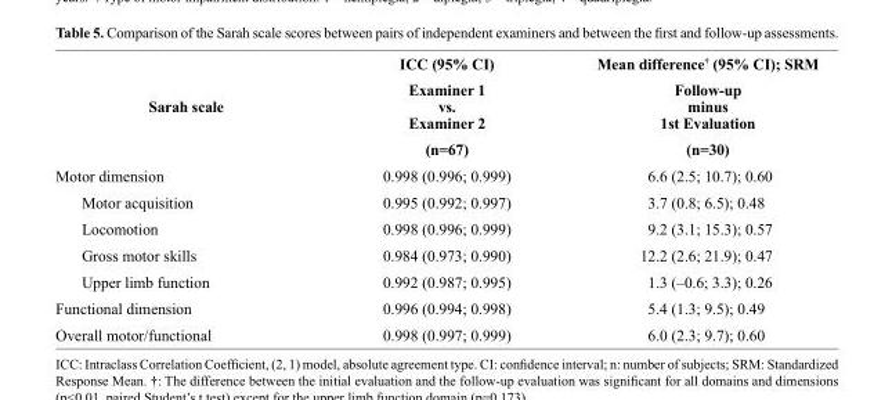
<table><thead><tr><td rowspan="3">Sarah scale</td><td rowspan="3">ICC (95% CI) Examiner 1 vs. Examiner 2 (n=67)</td><td rowspan="3">Mean difference<sup>†</sup> (95% CI); SRM Follow-up minus 1st Evaluation (n=30)</td></tr><tr></tr><tr></tr></thead><tbody><tr><td>Motor dimension</td><td>0.998 (0.996; 0.999)</td><td>6.6 (2.5; 10.7); 0.60</td></tr><tr><td>Motor acquisition</td><td>0.995 (0.992; 0.997)</td><td>3.7 (0.8; 6.5); 0.48</td></tr><tr><td>Locomotion</td><td>0.998 (0.996; 0.999)</td><td>9.2 (3.1; 15.3); 0.57</td></tr><tr><td>Gross motor skills</td><td>0.984 (0.973; 0.990)</td><td>12.2 (2.6; 21.9); 0.47</td></tr><tr><td>Upper limb function</td><td>0.992 (0.987; 0.995)</td><td>1.3 (–0.6; 3.3); 0.26</td></tr><tr><td>Functional dimension</td><td>0.996 (0.994; 0.998)</td><td>5.4 (1.3; 9.5); 0.49</td></tr><tr><td>Overall motor/functional</td><td>0.998 (0.997; 0.999)</td><td>6.0 (2.3; 9.7); 0.60</td></tr></tbody></table>